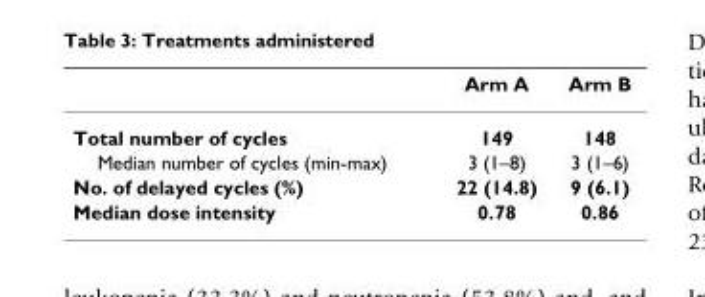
<table><thead><tr><td></td><td>Arm A</td><td>Arm B</td></tr></thead><tbody><tr><td>Total number of cycles</td><td>149</td><td>148</td></tr><tr><td>Median number of cycles (min-max)</td><td>3 (1–8)</td><td>3 (1–6)</td></tr><tr><td>No. of delayed cycles (%)</td><td>22 (14.8)</td><td>9 (6.1)</td></tr><tr><td>Median dose intensity</td><td>0.78</td><td>0.86</td></tr></tbody></table>